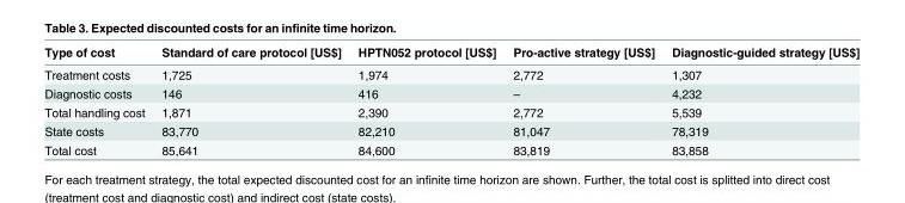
<table><thead><tr><td>Type of cost</td><td>Standard of care protocol [US$]</td><td>HPTN052 protocol [US$]</td><td>Pro-active strategy [US$]</td><td>Diagnostic-guided strategy [US$]</td></tr></thead><tbody><tr><td>Treatment costs</td><td>1,725</td><td>1,974</td><td>2,772</td><td>1,307</td></tr><tr><td>Diagnostic costs</td><td>146</td><td>416</td><td>–</td><td>4,232</td></tr><tr><td>Total handling cost</td><td>1,871</td><td>2,390</td><td>2,772</td><td>5,539</td></tr><tr><td>State costs</td><td>83,770</td><td>82,210</td><td>81,047</td><td>78,319</td></tr><tr><td>Total cost</td><td>85,641</td><td>84,600</td><td>83,819</td><td>83,858</td></tr></tbody></table>